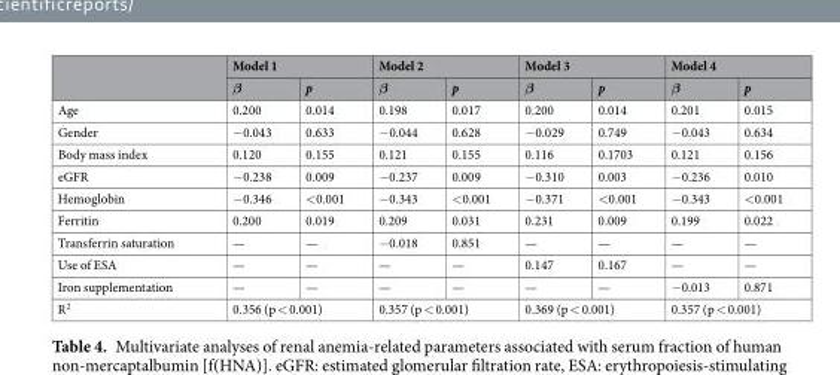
<table><thead><tr><td rowspan="2"></td><td colspan="2">Model 1</td><td colspan="2">Model 2</td><td colspan="2">Model 3</td><td colspan="2">Model 4</td></tr><tr><td>β</td><td>p</td><td>β</td><td>p</td><td>β</td><td>p</td><td>β</td><td>p</td></tr></thead><tbody><tr><td>Age</td><td>0.200</td><td>0.014</td><td>0.198</td><td>0.017</td><td>0.200</td><td>0.014</td><td>0.201</td><td>0.015</td></tr><tr><td>Gender</td><td>−0.043</td><td>0.633</td><td>−0.044</td><td>0.628</td><td>−0.029</td><td>0.749</td><td>−0.043</td><td>0.634</td></tr><tr><td>Body mass index</td><td>0.120</td><td>0.155</td><td>0.121</td><td>0.155</td><td>0.116</td><td>0.1703</td><td>0.121</td><td>0.156</td></tr><tr><td>eGFR</td><td>−0.238</td><td>0.009</td><td>−0.237</td><td>0.009</td><td>−0.310</td><td>0.003</td><td>−0.236</td><td>0.010</td></tr><tr><td>Hemoglobin</td><td>−0.346</td><td>&lt;0.001</td><td>−0.343</td><td>&lt;0.001</td><td>−0.371</td><td>&lt;0.001</td><td>−0.343</td><td>&lt;0.001</td></tr><tr><td>Ferritin</td><td>0.200</td><td>0.019</td><td>0.209</td><td>0.031</td><td>0.231</td><td>0.009</td><td>0.199</td><td>0.022</td></tr><tr><td>Transferrin saturation</td><td>—</td><td>—</td><td>−0.018</td><td>0.851</td><td>—</td><td>—</td><td>—</td><td>—</td></tr><tr><td>Use of ESA</td><td>—</td><td>—</td><td>—</td><td>—</td><td>0.147</td><td>0.167</td><td>—</td><td>—</td></tr><tr><td>Iron supplementation</td><td>—</td><td>—</td><td>—</td><td>—</td><td>—</td><td>—</td><td>−0.013</td><td>0.871</td></tr><tr><td>R<sup>2</sup></td><td colspan="2">0.356 (p &lt; 0.001)</td><td colspan="2">0.357 (p &lt; 0.001)</td><td colspan="2">0.369 (p &lt; 0.001)</td><td colspan="2">0.357 (p &lt; 0.001)</td></tr></tbody></table>